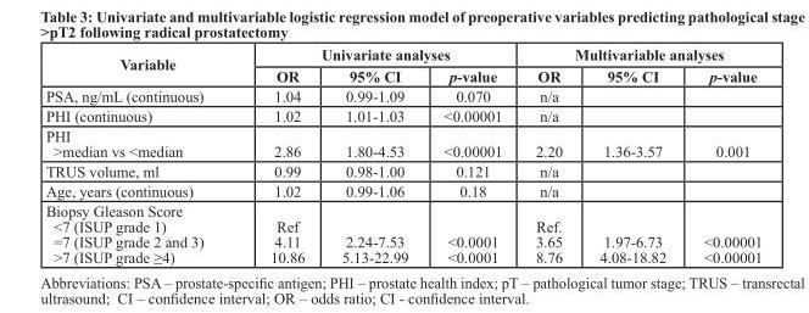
<table><thead><tr><td rowspan="2">Variable</td><td colspan="3">Univariate analyses</td><td colspan="3">Multivariable analyses</td></tr><tr><td>OR</td><td>95% CI</td><td>p-value</td><td>OR</td><td>95% CI</td><td>p-value</td></tr></thead><tbody><tr><td>PSA, ng/mL (continuous)</td><td>1.04</td><td>0.99-1.09</td><td>0.070</td><td>n/a</td><td></td><td></td></tr><tr><td>PHI (continuous)</td><td>1.02</td><td>1.01-1.03</td><td>&lt;0.00001</td><td>n/a</td><td></td><td></td></tr><tr><td>PHI &gt;median vs &lt;median</td><td>2.86</td><td>1.80-4.53</td><td>&lt;0.00001</td><td>2.20</td><td>1.36-3.57</td><td>0.001</td></tr><tr><td>TRUS volume, ml</td><td>0.99</td><td>0.98-1.00</td><td>0.121</td><td>n/a</td><td></td><td></td></tr><tr><td>Age, years (continuous)</td><td>1.02</td><td>0.99-1.06</td><td>0.18</td><td>n/a</td><td></td><td></td></tr><tr><td>Biopsy Gleason Score &lt;7 (ISUP grade 1) =7 (ISUP grade 2 and 3) &gt;7 (ISUP grade ≥4)</td><td>Ref 4.11 10.86</td><td>2.24-7.53 5.13-22.99</td><td>&lt;0.0001 &lt;0.0001</td><td>Ref. 3.65 8.76</td><td>1.97-6.73 4.08-18.82</td><td>&lt;0.00001 &lt;0.00001</td></tr></tbody></table>